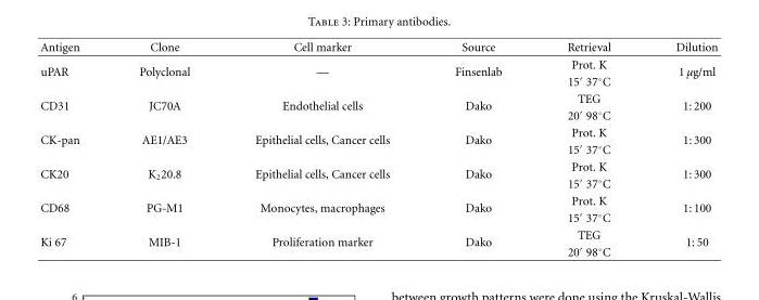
<table><thead><tr><td>Antigen</td><td>Clone</td><td>Cell marker</td><td>Source</td><td>Retrieval</td><td>Dilution</td></tr></thead><tbody><tr><td rowspan="2">uPAR</td><td rowspan="2">Polyclonal</td><td rowspan="2">—</td><td rowspan="2">Finsenlab</td><td>Prot. K</td><td rowspan="2">1 µg/ml</td></tr><tr><td>15′ 37◦C</td></tr><tr><td rowspan="2">CD31</td><td rowspan="2">JC70A</td><td rowspan="2">Endothelial cells</td><td rowspan="2">Dako</td><td>TEG</td><td rowspan="2">1: 200</td></tr><tr><td>20′ 98◦C</td></tr><tr><td rowspan="2">CK-pan</td><td rowspan="2">AE1/AE3</td><td rowspan="2">Epithelial cells, Cancer cells</td><td rowspan="2">Dako</td><td>Prot. K</td><td rowspan="2">1: 300</td></tr><tr><td>15′ 37◦C</td></tr><tr><td rowspan="2">CK20</td><td rowspan="2">K<sub>2</sub>20.8</td><td rowspan="2">Epithelial cells, Cancer cells</td><td rowspan="2">Dako</td><td>Prot. K</td><td rowspan="2">1: 300</td></tr><tr><td>15′ 37◦C</td></tr><tr><td rowspan="2">CD68</td><td rowspan="2">PG-M1</td><td rowspan="2">Monocytes, macrophages</td><td rowspan="2">Dako</td><td>Prot. K</td><td rowspan="2">1: 100</td></tr><tr><td>15′ 37◦C</td></tr><tr><td rowspan="2">Ki 67</td><td rowspan="2">MIB-1</td><td rowspan="2">Proliferation marker</td><td rowspan="2">Dako</td><td>TEG</td><td rowspan="2">1: 50</td></tr><tr><td>20′ 98◦C</td></tr></tbody></table>